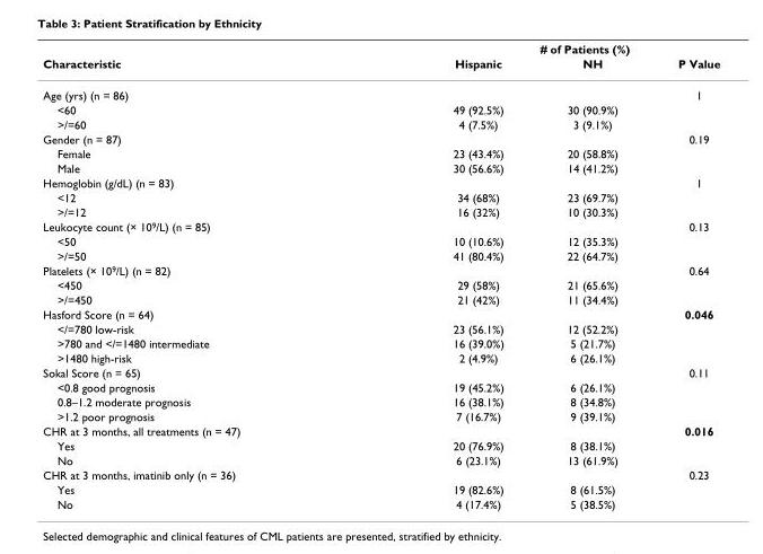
<table><thead><tr><td rowspan="2">Characteristic</td><td colspan="3"># of Patients (%)</td></tr><tr><td>Hispanic</td><td>NH</td><td>P Value</td></tr></thead><tbody><tr><td>Age (yrs) (n = 86)</td><td></td><td></td><td>1</td></tr><tr><td>&lt;60</td><td>49 (92.5%)</td><td>30 (90.9%)</td><td></td></tr><tr><td>&gt;/=60</td><td>4 (7.5%)</td><td>3 (9.1%)</td><td></td></tr><tr><td>Gender (n = 87)</td><td></td><td></td><td>0.19</td></tr><tr><td>Female</td><td>23 (43.4%)</td><td>20 (58.8%)</td><td></td></tr><tr><td>Male</td><td>30 (56.6%)</td><td>14 (41.2%)</td><td></td></tr><tr><td>Hemoglobin (g/dL) (n = 83)</td><td></td><td></td><td>1</td></tr><tr><td>&lt;12</td><td>34 (68%)</td><td>23 (69.7%)</td><td></td></tr><tr><td>&gt;/=12</td><td>16 (32%)</td><td>10 (30.3%)</td><td></td></tr><tr><td>Leukocyte count (× 10<sup>9</sup>/L) (n = 85)</td><td></td><td></td><td>0.13</td></tr><tr><td>&lt;50</td><td>10 (10.6%)</td><td>12 (35.3%)</td><td></td></tr><tr><td>&gt;/=50</td><td>41 (80.4%)</td><td>22 (64.7%)</td><td></td></tr><tr><td>Platelets (× 10<sup>9</sup>/L) (n = 82)</td><td></td><td></td><td>0.64</td></tr><tr><td>&lt;450</td><td>29 (58%)</td><td>21 (65.6%)</td><td></td></tr><tr><td>&gt;/=450</td><td>21 (42%)</td><td>11 (34.4%)</td><td></td></tr><tr><td>Hasford Score (n = 64)</td><td></td><td></td><td>0.046</td></tr><tr><td>&lt;/=780 low-risk</td><td>23 (56.1%)</td><td>12 (52.2%)</td><td></td></tr><tr><td>&gt;780 and &lt;/=1480 intermediate</td><td>16 (39.0%)</td><td>5 (21.7%)</td><td></td></tr><tr><td>&gt;1480 high-risk</td><td>2 (4.9%)</td><td>6 (26.1%)</td><td></td></tr><tr><td>Sokal Score (n = 65)</td><td></td><td></td><td>0.11</td></tr><tr><td>&lt;0.8 good prognosis</td><td>19 (45.2%)</td><td>6 (26.1%)</td><td></td></tr><tr><td>0.8–1.2 moderate prognosis</td><td>16 (38.1%)</td><td>8 (34.8%)</td><td></td></tr><tr><td>&gt;1.2 poor prognosis</td><td>7 (16.7%)</td><td>9 (39.1%)</td><td></td></tr><tr><td>CHR at 3 months, all treatments (n = 47)</td><td></td><td></td><td>0.016</td></tr><tr><td>Yes</td><td>20 (76.9%)</td><td>8 (38.1%)</td><td></td></tr><tr><td>No</td><td>6 (23.1%)</td><td>13 (61.9%)</td><td></td></tr><tr><td>CHR at 3 months, imatinib only (n = 36)</td><td></td><td></td><td>0.23</td></tr><tr><td>Yes</td><td>19 (82.6%)</td><td>8 (61.5%)</td><td></td></tr><tr><td>No</td><td>4 (17.4%)</td><td>5 (38.5%)</td><td></td></tr></tbody></table>